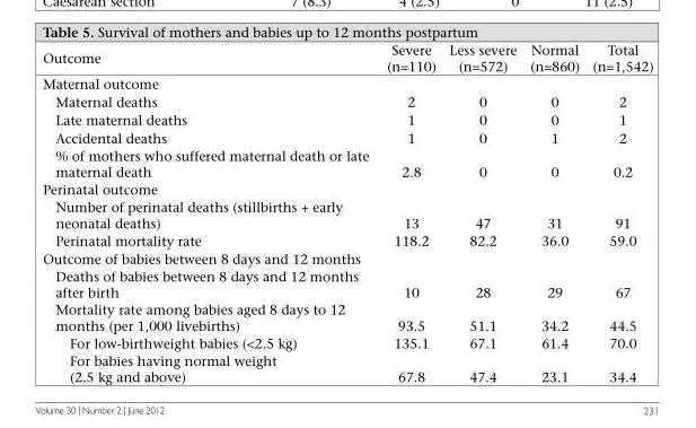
<table><thead><tr><td>Outcome</td><td>Severe (n=110)</td><td>Less severe (n=572)</td><td>Normal (n=860)</td><td>Total (n=1,542)</td></tr></thead><tbody><tr><td colspan="5">Maternal outcome</td></tr><tr><td>Maternal deaths</td><td>2</td><td>0</td><td>0</td><td>2</td></tr><tr><td>Late maternal deaths</td><td>1</td><td>0</td><td>0</td><td>1</td></tr><tr><td>Accidental deaths</td><td>1</td><td>0</td><td>1</td><td>2</td></tr><tr><td>% of mothers who suffered maternal death or late maternal death</td><td>2.8</td><td>0</td><td>0</td><td>0.2</td></tr><tr><td colspan="5">Perinatal outcome</td></tr><tr><td>Number of perinatal deaths (stillbirths + early neonatal deaths)</td><td>13</td><td>47</td><td>31</td><td>91</td></tr><tr><td>Perinatal mortality rate</td><td>118.2</td><td>82.2</td><td>36.0</td><td>59.0</td></tr><tr><td colspan="5">Outcome of babies between 8 days and 12 months</td></tr><tr><td>Deaths of babies between 8 days and 12 months after birth</td><td>10</td><td>28</td><td>29</td><td>67</td></tr><tr><td>Mortality rate among babies aged 8 days to 12 months (per 1,000 livebirths)</td><td>93.5</td><td>51.1</td><td>34.2</td><td>44.5</td></tr><tr><td>For low-birthweight babies (&lt;2.5 kg)</td><td>135.1</td><td>67.1</td><td>61.4</td><td>70.0</td></tr><tr><td>For babies having normal weight (2.5 kg and above)</td><td>67.8</td><td>47.4</td><td>23.1</td><td>34.4</td></tr></tbody></table>